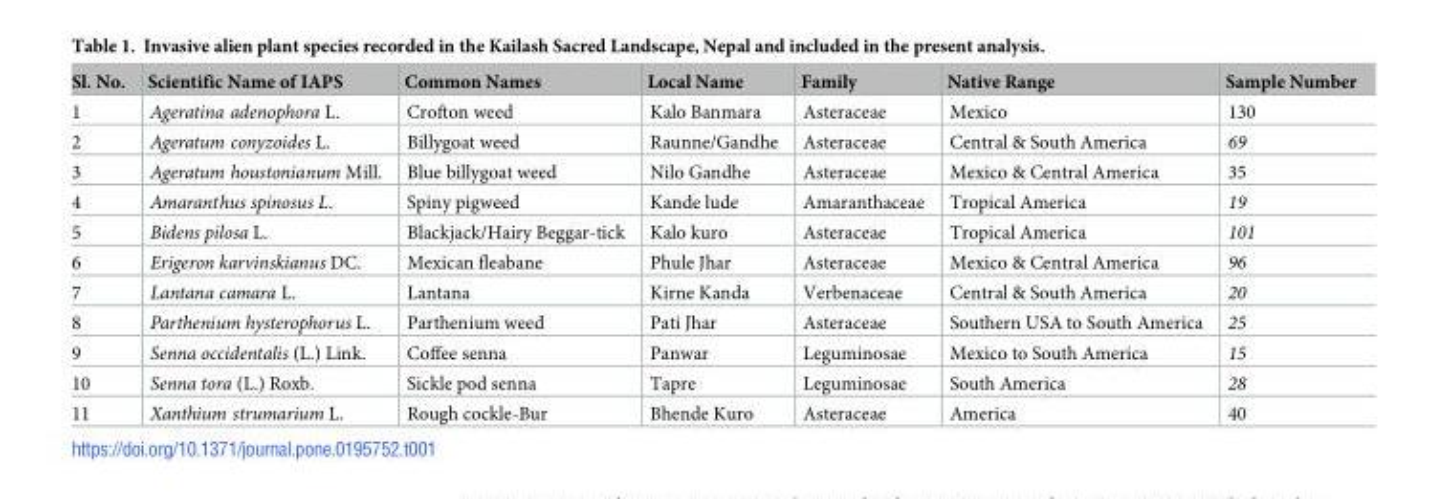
<table><thead><tr><td>Sl. No.</td><td>Scientific Name of IAPS</td><td>Common Names</td><td>Local Name</td><td>Family</td><td>Native Range</td><td>Sample Number</td></tr></thead><tbody><tr><td>1</td><td>Ageratina adenophora L.</td><td>Crofton weed</td><td>Kalo Banmara</td><td>Asteraceae</td><td>Mexico</td><td>130</td></tr><tr><td>2</td><td>Ageratum conyzoides L.</td><td>Billygoat weed</td><td>Raunne/Gandhe</td><td>Asteraceae</td><td>Central &amp; South America</td><td>69</td></tr><tr><td>3</td><td>Ageratum houstonianum Mill.</td><td>Blue billygoat weed</td><td>Nilo Gandhe</td><td>Asteraceae</td><td>Mexico &amp; Central America</td><td>35</td></tr><tr><td>4</td><td>Amaranthus spinosus L.</td><td>Spiny pigweed</td><td>Kande lude</td><td>Amaranthaceae</td><td>Tropical America</td><td>19</td></tr><tr><td>5</td><td>Bidens pilosa L.</td><td>Blackjack/Hairy Beggar-tick</td><td>Kalo kuro</td><td>Asteraceae</td><td>Tropical America</td><td>101</td></tr><tr><td>6</td><td>Erigeron karvinskianus DC.</td><td>Mexican fleabane</td><td>Phule Jhar</td><td>Asteraceae</td><td>Mexico &amp; Central America</td><td>96</td></tr><tr><td>7</td><td>Lantana camara L.</td><td>Lantana</td><td>Kirne Kanda</td><td>Verbenaceae</td><td>Central &amp; South America</td><td>20</td></tr><tr><td>8</td><td>Parthenium hysterophorus L.</td><td>Parthenium weed</td><td>Pati Jhar</td><td>Asteraceae</td><td>Southern USA to South America</td><td>25</td></tr><tr><td>9</td><td>Senna occidentalis (L.) Link.</td><td>Coffee senna</td><td>Panwar</td><td>Leguminosae</td><td>Mexico to South America</td><td>15</td></tr><tr><td>10</td><td>Senna tora (L.) Roxb.</td><td>Sickle pod senna</td><td>Tapre</td><td>Leguminosae</td><td>South America</td><td>28</td></tr><tr><td>11</td><td>Xanthium strumarium L.</td><td>Rough cockle-Bur</td><td>Bhende Kuro</td><td>Asteraceae</td><td>America</td><td>40</td></tr></tbody></table>